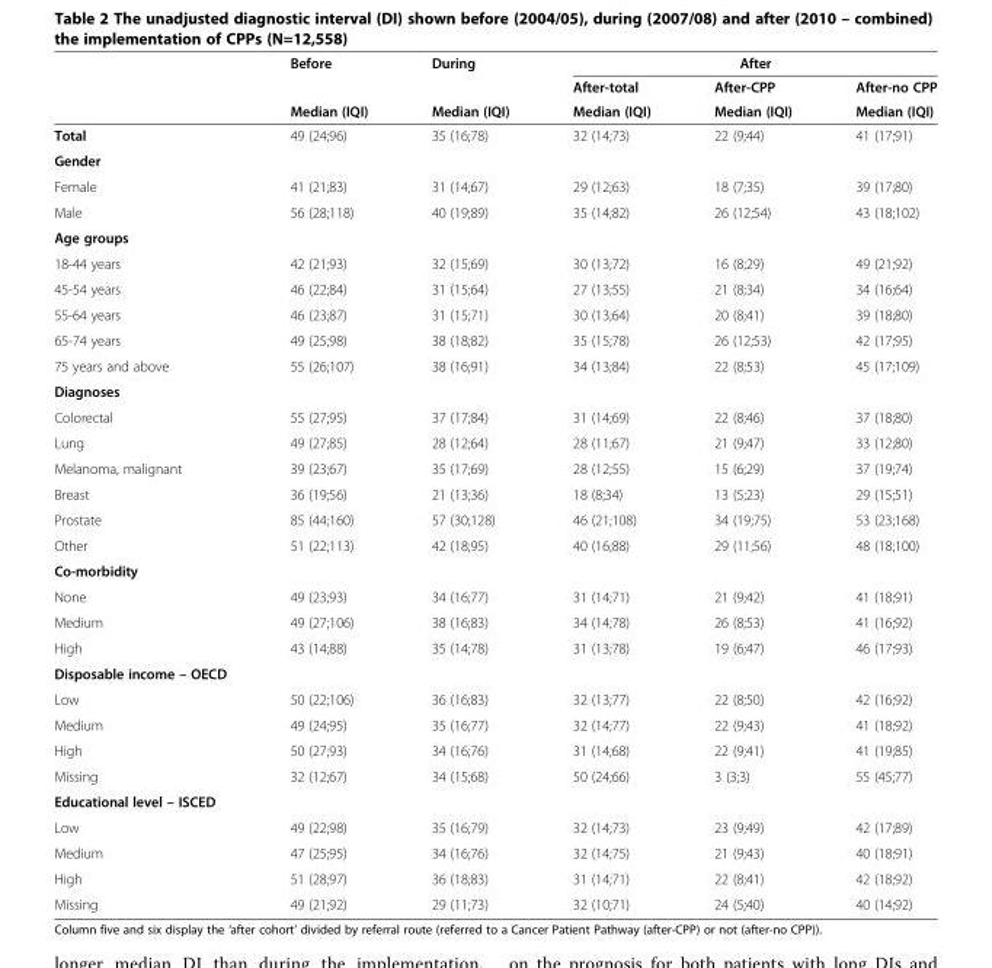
<table><thead><tr><td rowspan="3"></td><td rowspan="3">Before Median (IQI)</td><td rowspan="3">During Median (IQI)</td><td colspan="3">After</td></tr><tr><td rowspan="2">After-total Median (IQI)</td><td rowspan="2">After-CPP Median (IQI)</td><td rowspan="2">After-no CPP Median (IQI)</td></tr><tr></tr></thead><tbody><tr><td>Total</td><td>49 (24;96)</td><td>35 (16;78)</td><td>32 (14;73)</td><td>22 (9;44)</td><td>41 (17;91)</td></tr><tr><td colspan="6">Gender</td></tr><tr><td>Female</td><td>41 (21;83)</td><td>31 (14;67)</td><td>29 (12;63)</td><td>18 (7;35)</td><td>39 (17;80)</td></tr><tr><td>Male</td><td>56 (28;118)</td><td>40 (19;89)</td><td>35 (14;82)</td><td>26 (12;54)</td><td>43 (18;102)</td></tr><tr><td colspan="6">Age groups</td></tr><tr><td>18-44 years</td><td>42 (21;93)</td><td>32 (15;69)</td><td>30 (13;72)</td><td>16 (8;29)</td><td>49 (21;92)</td></tr><tr><td>45-54 years</td><td>46 (22;84)</td><td>31 (15;64)</td><td>27 (13;55)</td><td>21 (8;34)</td><td>34 (16;64)</td></tr><tr><td>55-64 years</td><td>46 (23;87)</td><td>31 (15;71)</td><td>30 (13;64)</td><td>20 (8;41)</td><td>39 (18;80)</td></tr><tr><td>65-74 years</td><td>49 (25;98)</td><td>38 (18;82)</td><td>35 (15;78)</td><td>26 (12;53)</td><td>42 (17;95)</td></tr><tr><td>75 years and above</td><td>55 (26;107)</td><td>38 (16;91)</td><td>34 (13;84)</td><td>22 (8;53)</td><td>45 (17;109)</td></tr><tr><td colspan="6">Diagnoses</td></tr><tr><td>Colorectal</td><td>55 (27;95)</td><td>37 (17;84)</td><td>31 (14;69)</td><td>22 (8;46)</td><td>37 (18;80)</td></tr><tr><td>Lung</td><td>49 (27;85)</td><td>28 (12;64)</td><td>28 (11;67)</td><td>21 (9;47)</td><td>33 (12;80)</td></tr><tr><td>Melanoma, malignant</td><td>39 (23;67)</td><td>35 (17;69)</td><td>28 (12;55)</td><td>15 (6;29)</td><td>37 (19;74)</td></tr><tr><td>Breast</td><td>36 (19;56)</td><td>21 (13;36)</td><td>18 (8;34)</td><td>13 (5;23)</td><td>29 (15;51)</td></tr><tr><td>Prostate</td><td>85 (44;160)</td><td>57 (30;128)</td><td>46 (21;108)</td><td>34 (19;75)</td><td>53 (23;168)</td></tr><tr><td>Other</td><td>51 (22;113)</td><td>42 (18;95)</td><td>40 (16;88)</td><td>29 (11;56)</td><td>48 (18;100)</td></tr><tr><td colspan="6">Co-morbidity</td></tr><tr><td>None</td><td>49 (23;93)</td><td>34 (16;77)</td><td>31 (14;71)</td><td>21 (9;42)</td><td>41 (18;91)</td></tr><tr><td>Medium</td><td>49 (27;106)</td><td>38 (16;83)</td><td>34 (14;78)</td><td>26 (8;53)</td><td>41 (16;92)</td></tr><tr><td>High</td><td>43 (14;88)</td><td>35 (14;78)</td><td>31 (13;78)</td><td>19 (6;47)</td><td>46 (17;93)</td></tr><tr><td colspan="6">Disposable income – OECD</td></tr><tr><td>Low</td><td>50 (22;106)</td><td>36 (16;83)</td><td>32 (13;77)</td><td>22 (8;50)</td><td>42 (16;92)</td></tr><tr><td>Medium</td><td>49 (24;95)</td><td>35 (16;77)</td><td>32 (14;77)</td><td>22 (9;43)</td><td>41 (18;92)</td></tr><tr><td>High</td><td>50 (27;93)</td><td>34 (16;76)</td><td>31 (14;68)</td><td>22 (9;41)</td><td>41 (19;85)</td></tr><tr><td>Missing</td><td>32 (12;67)</td><td>34 (15;68)</td><td>50 (24;66)</td><td>3 (3;3)</td><td>55 (45;77)</td></tr><tr><td colspan="6">Educational level – ISCED</td></tr><tr><td>Low</td><td>49 (22;98)</td><td>35 (16;79)</td><td>32 (14;73)</td><td>23 (9;49)</td><td>42 (17;89)</td></tr><tr><td>Medium</td><td>47 (25;95)</td><td>34 (16;76)</td><td>32 (14;75)</td><td>21 (9;43)</td><td>40 (18;91)</td></tr><tr><td>High</td><td>51 (28;97)</td><td>36 (18;83)</td><td>31 (14;71)</td><td>22 (8;41)</td><td>42 (18;92)</td></tr><tr><td>Missing</td><td>49 (21;92)</td><td>29 (11;73)</td><td>32 (10;71)</td><td>24 (5;40)</td><td>40 (14;92)</td></tr></tbody></table>